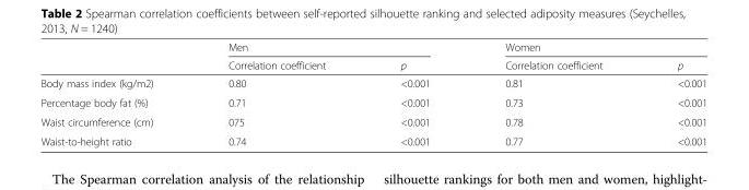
<table><thead><tr><td rowspan="2"></td><td colspan="2">Men</td><td colspan="2">Women</td></tr><tr><td>Correlation coefficient</td><td>p</td><td>Correlation coefficient</td><td>p</td></tr></thead><tbody><tr><td>Body mass index (kg/m2)</td><td>0.80</td><td>&lt;0.001</td><td>0.81</td><td>&lt;0.001</td></tr><tr><td>Percentage body fat (%)</td><td>0.71</td><td>&lt;0.001</td><td>0.73</td><td>&lt;0.001</td></tr><tr><td>Waist circumference (cm)</td><td>075</td><td>&lt;0.001</td><td>0.78</td><td>&lt;0.001</td></tr><tr><td>Waist-to-height ratio</td><td>0.74</td><td>&lt;0.001</td><td>0.77</td><td>&lt;0.001</td></tr></tbody></table>